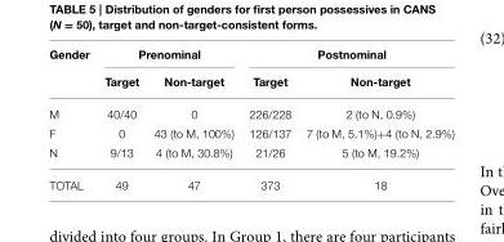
<table><thead><tr><td rowspan="2">Gender</td><td colspan="2">Prenominal</td><td colspan="2">Postnominal</td></tr><tr><td>Target</td><td>Non-target</td><td>Target</td><td>Non-target</td></tr></thead><tbody><tr><td>M</td><td>40/40</td><td>0</td><td>226/228</td><td>2 (to N, 0.9%)</td></tr><tr><td>F</td><td>0</td><td>43 (to M, 100%)</td><td>126/137</td><td>7 (to M, 5.1%)+4 (to N, 2.9%)</td></tr><tr><td>N</td><td>9/13</td><td>4 (to M, 30.8%)</td><td>21/26</td><td>5 (to M, 19.2%)</td></tr><tr><td>TOTAL</td><td>49</td><td>47</td><td>373</td><td>18</td></tr></tbody></table>